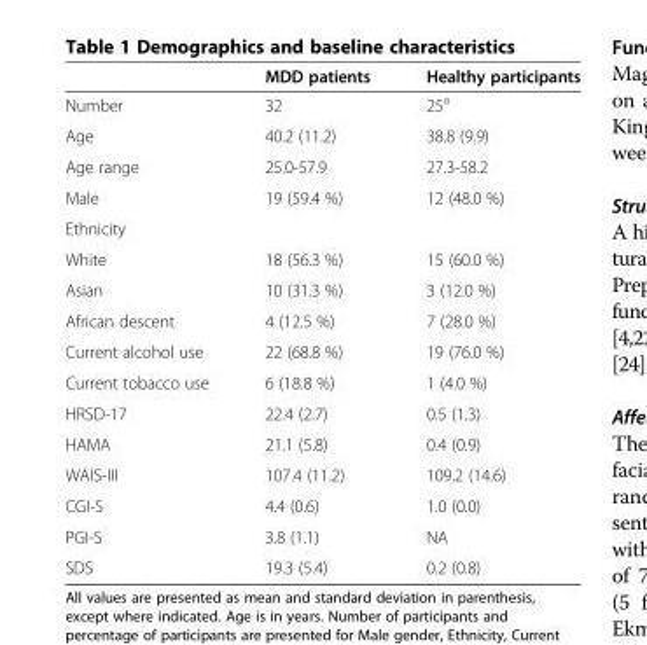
<table><thead><tr><td></td><td>MDD patients</td><td>Healthy participants</td></tr></thead><tbody><tr><td>Number</td><td>32</td><td>25<sup>a</sup></td></tr><tr><td>Age</td><td>40.2 (11.2)</td><td>38.8 (9.9)</td></tr><tr><td>Age range</td><td>25.0-57.9</td><td>27.3-58.2</td></tr><tr><td>Male</td><td>19 (59.4 %)</td><td>12 (48.0 %)</td></tr><tr><td colspan="3">Ethnicity</td></tr><tr><td>White</td><td>18 (56.3 %)</td><td>15 (60.0 %)</td></tr><tr><td>Asian</td><td>10 (31.3 %)</td><td>3 (12.0 %)</td></tr><tr><td>African descent</td><td>4 (12.5 %)</td><td>7 (28.0 %)</td></tr><tr><td>Current alcohol use</td><td>22 (68.8 %)</td><td>19 (76.0 %)</td></tr><tr><td>Current tobacco use</td><td>6 (18.8 %)</td><td>1 (4.0 %)</td></tr><tr><td>HRSD-17</td><td>22.4 (2.7)</td><td>0.5 (1.3)</td></tr><tr><td>HAMA</td><td>21.1 (5.8)</td><td>0.4 (0.9)</td></tr><tr><td>WAIS-III</td><td>107.4 (11.2)</td><td>109.2 (14.6)</td></tr><tr><td>CGI-S</td><td>4.4 (0.6)</td><td>1.0 (0.0)</td></tr><tr><td>PGI-S</td><td>3.8 (1.1)</td><td>NA</td></tr><tr><td>SDS</td><td>19.3 (5.4)</td><td>0.2 (0.8)</td></tr></tbody></table>